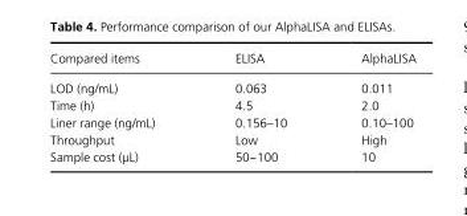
<table><thead><tr><td>Compared items</td><td>ELISA</td><td>AlphaLISA</td></tr></thead><tbody><tr><td>LOD (ng/mL)</td><td>0.063</td><td>0.011</td></tr><tr><td>Time (h)</td><td>4.5</td><td>2.0</td></tr><tr><td>Liner range (ng/mL)</td><td>0.156–10</td><td>0.10–100</td></tr><tr><td>Throughput</td><td>Low</td><td>High</td></tr><tr><td>Sample cost (μL)</td><td>50~100</td><td>10</td></tr></tbody></table>